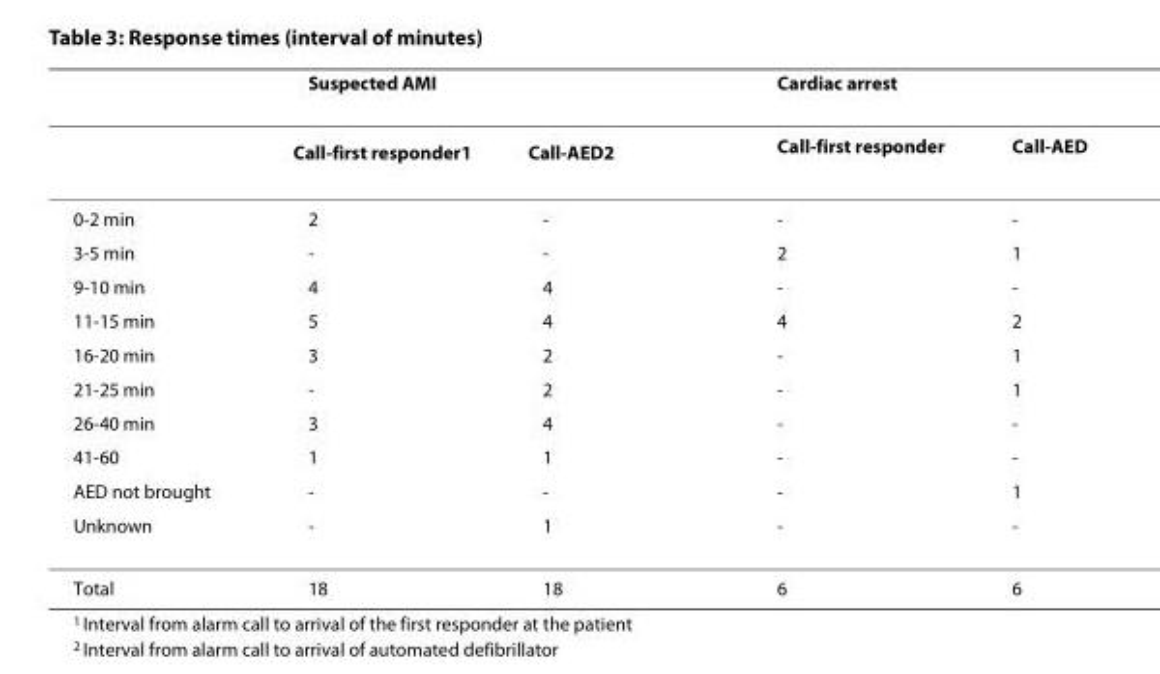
<table><thead><tr><td rowspan="2"></td><td colspan="2">Suspected AMI</td><td colspan="2">Cardiac arrest</td></tr><tr><td>Call-first responder<sup>1</sup></td><td>Call-AED<sup>2</sup></td><td>Call-first responder</td><td>Call-AED</td></tr></thead><tbody><tr><td>0-2 min</td><td>2</td><td>-</td><td>-</td><td>-</td></tr><tr><td>3-5 min</td><td>-</td><td>-</td><td>2</td><td>1</td></tr><tr><td>9-10 min</td><td>4</td><td>4</td><td>-</td><td>-</td></tr><tr><td>11-15 min</td><td>5</td><td>4</td><td>4</td><td>2</td></tr><tr><td>16-20 min</td><td>3</td><td>2</td><td>-</td><td>1</td></tr><tr><td>21-25 min</td><td>-</td><td>2</td><td>-</td><td>1</td></tr><tr><td>26-40 min</td><td>3</td><td>4</td><td>-</td><td>-</td></tr><tr><td>41-60</td><td>1</td><td>1</td><td>-</td><td>-</td></tr><tr><td>AED not brought</td><td>-</td><td>-</td><td>-</td><td>1</td></tr><tr><td>Unknown</td><td>-</td><td>1</td><td>-</td><td>-</td></tr><tr><td>Total</td><td>18</td><td>18</td><td>6</td><td>6</td></tr></tbody></table>